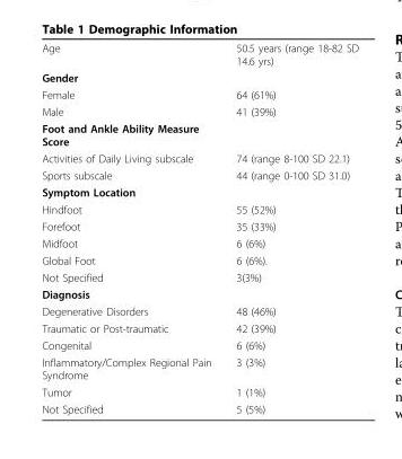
<table><tbody><tr><td>Age</td><td>50.5 years (range 18-82 SD 14.6 yrs)</td></tr><tr><td colspan="2">Gender</td></tr><tr><td>Female</td><td>64 (61%)</td></tr><tr><td>Male</td><td>41 (39%)</td></tr><tr><td colspan="2">Foot and Ankle Ability Measure Score</td></tr><tr><td>Activities of Daily Living subscale</td><td>74 (range 8-100 SD 22.1)</td></tr><tr><td>Sports subscale</td><td>44 (range 0-100 SD 31.0)</td></tr><tr><td colspan="2">Symptom Location</td></tr><tr><td>Hindfoot</td><td>55 (52%)</td></tr><tr><td>Forefoot</td><td>35 (33%)</td></tr><tr><td>Midfoot</td><td>6 (6%)</td></tr><tr><td>Global Foot</td><td>6 (6%).</td></tr><tr><td>Not Specified</td><td>3(3%)</td></tr><tr><td colspan="2">Diagnosis</td></tr><tr><td>Degenerative Disorders</td><td>48 (46%)</td></tr><tr><td>Traumatic or Post-traumatic</td><td>42 (39%)</td></tr><tr><td>Congenital</td><td>6 (6%)</td></tr><tr><td>Inflammatory/Complex Regional Pain Syndrome</td><td>3 (3%)</td></tr><tr><td>Tumor</td><td>1 (1%)</td></tr><tr><td>Not Specified</td><td>5 (5%)</td></tr></tbody></table>